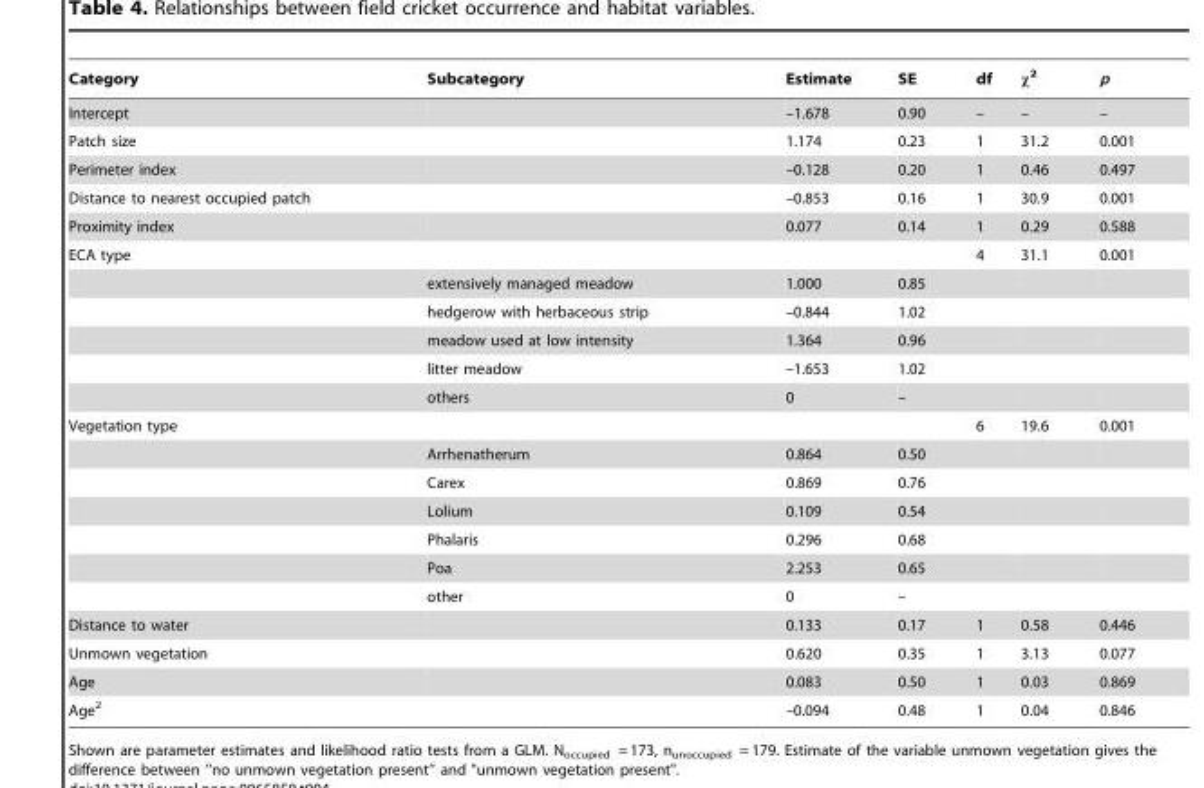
<table><thead><tr><td>Category</td><td>Subcategory</td><td>Estimate</td><td>SE</td><td>df</td><td>χ<sup>2</sup></td><td>p</td></tr></thead><tbody><tr><td>Intercept</td><td></td><td>–1.678</td><td>0.90</td><td>–</td><td>–</td><td>–</td></tr><tr><td>Patch size</td><td></td><td>1.174</td><td>0.23</td><td>1</td><td>31.2</td><td>0.001</td></tr><tr><td>Perimeter index</td><td></td><td>–0.128</td><td>0.20</td><td>1</td><td>0.46</td><td>0.497</td></tr><tr><td>Distance to nearest occupied patch</td><td></td><td>–0.853</td><td>0.16</td><td>1</td><td>30.9</td><td>0.001</td></tr><tr><td>Proximity index</td><td></td><td>0.077</td><td>0.14</td><td>1</td><td>0.29</td><td>0.588</td></tr><tr><td rowspan="6">ECA type</td><td></td><td></td><td></td><td>4</td><td>31.1</td><td>0.001</td></tr><tr><td>extensively managed meadow</td><td>1.000</td><td>0.85</td><td></td><td></td><td></td></tr><tr><td>hedgerow with herbaceous strip</td><td>–0.844</td><td>1.02</td><td></td><td></td><td></td></tr><tr><td>meadow used at low intensity</td><td>1.364</td><td>0.96</td><td></td><td></td><td></td></tr><tr><td>litter meadow</td><td>–1.653</td><td>1.02</td><td></td><td></td><td></td></tr><tr><td>others</td><td>0</td><td>–</td><td></td><td></td><td></td></tr><tr><td rowspan="7">Vegetation type</td><td></td><td></td><td></td><td>6</td><td>19.6</td><td>0.001</td></tr><tr><td>Arrhenatherum</td><td>0.864</td><td>0.50</td><td></td><td></td><td></td></tr><tr><td>Carex</td><td>0.869</td><td>0.76</td><td></td><td></td><td></td></tr><tr><td>Lolium</td><td>0.109</td><td>0.54</td><td></td><td></td><td></td></tr><tr><td>Phalaris</td><td>0.296</td><td>0.68</td><td></td><td></td><td></td></tr><tr><td>Poa</td><td>2.253</td><td>0.65</td><td></td><td></td><td></td></tr><tr><td>other</td><td>0</td><td>–</td><td></td><td></td><td></td></tr><tr><td>Distance to water</td><td></td><td>0.133</td><td>0.17</td><td>1</td><td>0.58</td><td>0.446</td></tr><tr><td>Unmown vegetation</td><td></td><td>0.620</td><td>0.35</td><td>1</td><td>3.13</td><td>0.077</td></tr><tr><td>Age</td><td></td><td>0.083</td><td>0.50</td><td>1</td><td>0.03</td><td>0.869</td></tr><tr><td>Age<sup>2</sup></td><td></td><td>–0.094</td><td>0.48</td><td>1</td><td>0.04</td><td>0.846</td></tr></tbody></table>